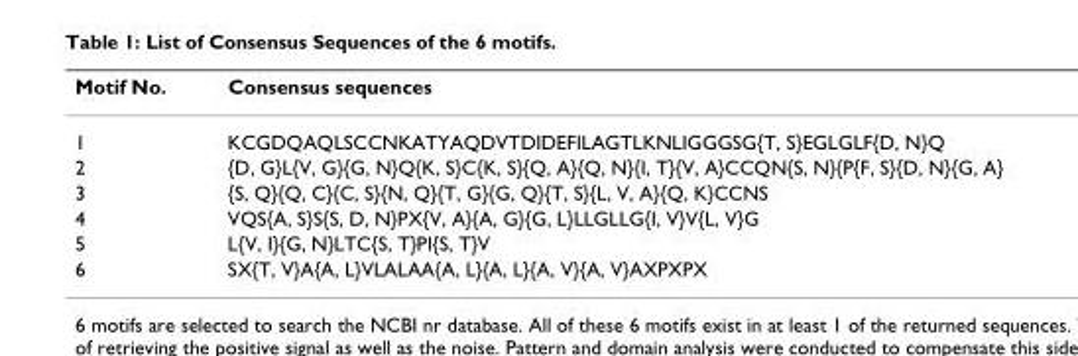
<table><thead><tr><td>Motif No.</td><td>Consensus sequences</td></tr></thead><tbody><tr><td>1</td><td>KCGDQAQLSCCNKATYAQDVTDIDEFILAGTLKNLIGGGSG{T, S}EGLGLF{D, N}Q</td></tr><tr><td>2</td><td>{D, G}L{V, G}{G, N}Q{K, S}C{K, S}{Q, A}{Q, N}{I, T}{V, A}CCQN{S, N}{P{F, S}{D, N}{G, A}</td></tr><tr><td>3</td><td>{S, Q}{Q, C}{C, S}{N, Q}{T, G}{G, Q}{T, S}{L, V, A}{Q, K}CCNS</td></tr><tr><td>4</td><td>VQS{A, S}S{S, D, N}PX{V, A}{A, G}{G, L}LLGLLG{I, V}V{L, V}G</td></tr><tr><td>5</td><td>L{V, I}{G, N}LTC{S, T}PI{S, T}V</td></tr><tr><td>6</td><td>SX{T, V}A{A, L}VLALAA{A, L}{A, L}{A, V}{A, V}AXPXPX</td></tr></tbody></table>